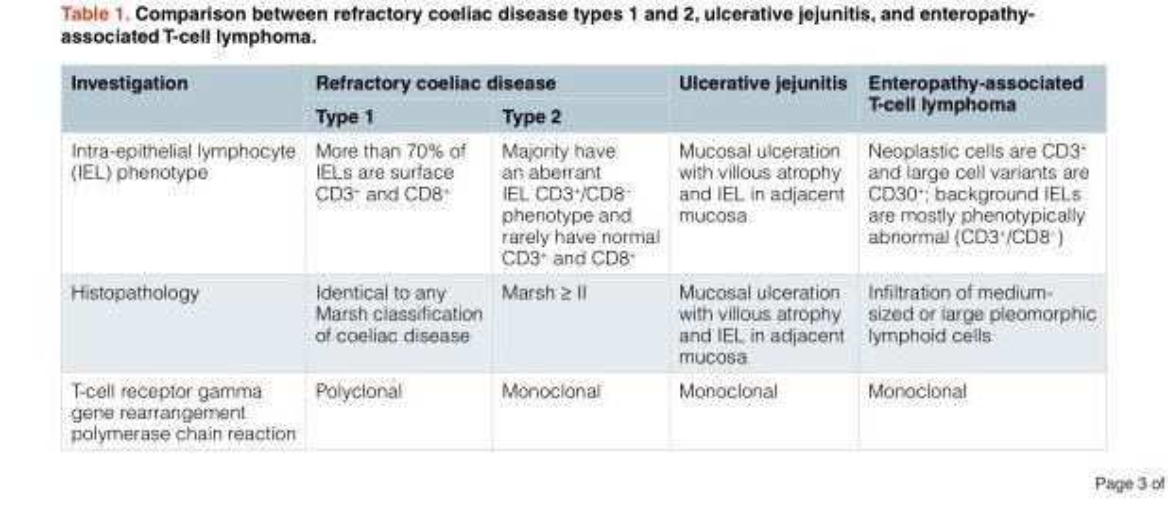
<table><thead><tr><td rowspan="2">Investigation</td><td colspan="2">Refractory coeliac disease</td><td rowspan="2">Ulcerative jejunitis</td><td rowspan="2">Enteropathy-associated T-cell lymphoma</td></tr><tr><td>Type 1</td><td>Type 2</td></tr></thead><tbody><tr><td>Intra-epithelial lymphocyte (IEL) phenotype</td><td>More than 70% of IELs are surface CD3<sup>+</sup> and CD8<sup>+</sup></td><td>Majority have an aberrant IEL CD3<sup>+</sup>/CD8<sup>−</sup> phenotype and rarely have normal CD3<sup>+</sup> and CD8<sup>+</sup></td><td>Mucosal ulceration with villous atrophy and IEL in adjacent mucosa</td><td>Neoplastic cells are CD3<sup>+</sup> and large cell variants are CD30<sup>+</sup>; background IELs are mostly phenotypically abnormal (CD3<sup>+</sup>/CD8<sup>−</sup>)</td></tr><tr><td>Histopathology</td><td>Identical to any Marsh classification of coeliac disease</td><td>Marsh ≥ II</td><td>Mucosal ulceration with villous atrophy and IEL in adjacent mucosa</td><td>Infiltration of medium- sized or large pleomorphic lymphoid cells</td></tr><tr><td>T-cell receptor gamma gene rearrangement polymerase chain reaction</td><td>Polyclonal</td><td>Monoclonal</td><td>Monoclonal</td><td>Monoclonal</td></tr></tbody></table>